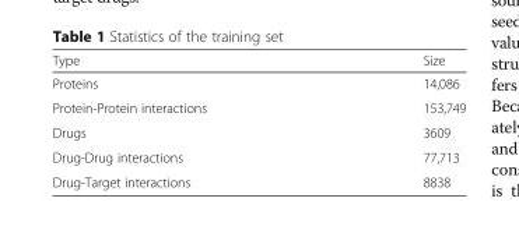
<table><thead><tr><td>Type</td><td>Size</td></tr></thead><tbody><tr><td>Proteins</td><td>14,086</td></tr><tr><td>Protein-Protein interactions</td><td>153,749</td></tr><tr><td>Drugs</td><td>3609</td></tr><tr><td>Drug-Drug interactions</td><td>77,713</td></tr><tr><td>Drug-Target interactions</td><td>8838</td></tr></tbody></table>